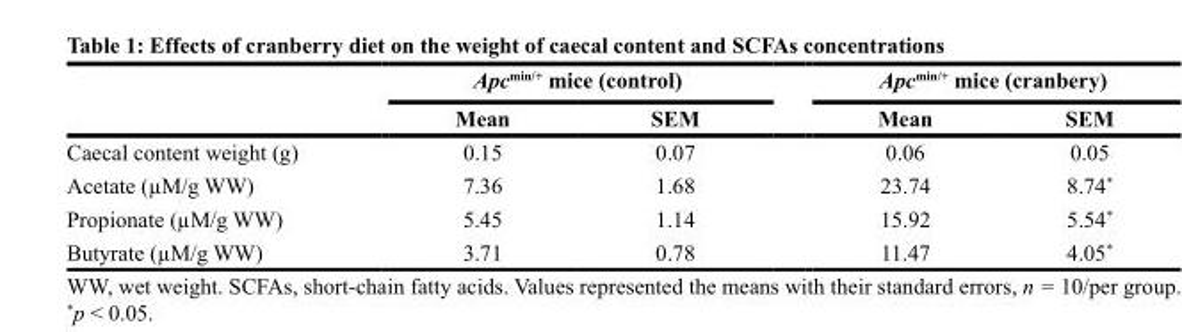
<table><thead><tr><td rowspan="2"></td><td colspan="2">Apc<sup>min/+</sup> mice (control)</td><td colspan="2">Apc<sup>min/+</sup> mice (cranbery)</td></tr><tr><td>Mean</td><td>SEM</td><td>Mean</td><td>SEM</td></tr></thead><tbody><tr><td>Caecal content weight (g)</td><td>0.15</td><td>0.07</td><td>0.06</td><td>0.05</td></tr><tr><td>Acetate (µM/g WW)</td><td>7.36</td><td>1.68</td><td>23.74</td><td>8.74*</td></tr><tr><td>Propionate (µM/g WW)</td><td>5.45</td><td>1.14</td><td>15.92</td><td>5.54*</td></tr><tr><td>Butyrate (µM/g WW)</td><td>3.71</td><td>0.78</td><td>11.47</td><td>4.05*</td></tr></tbody></table>